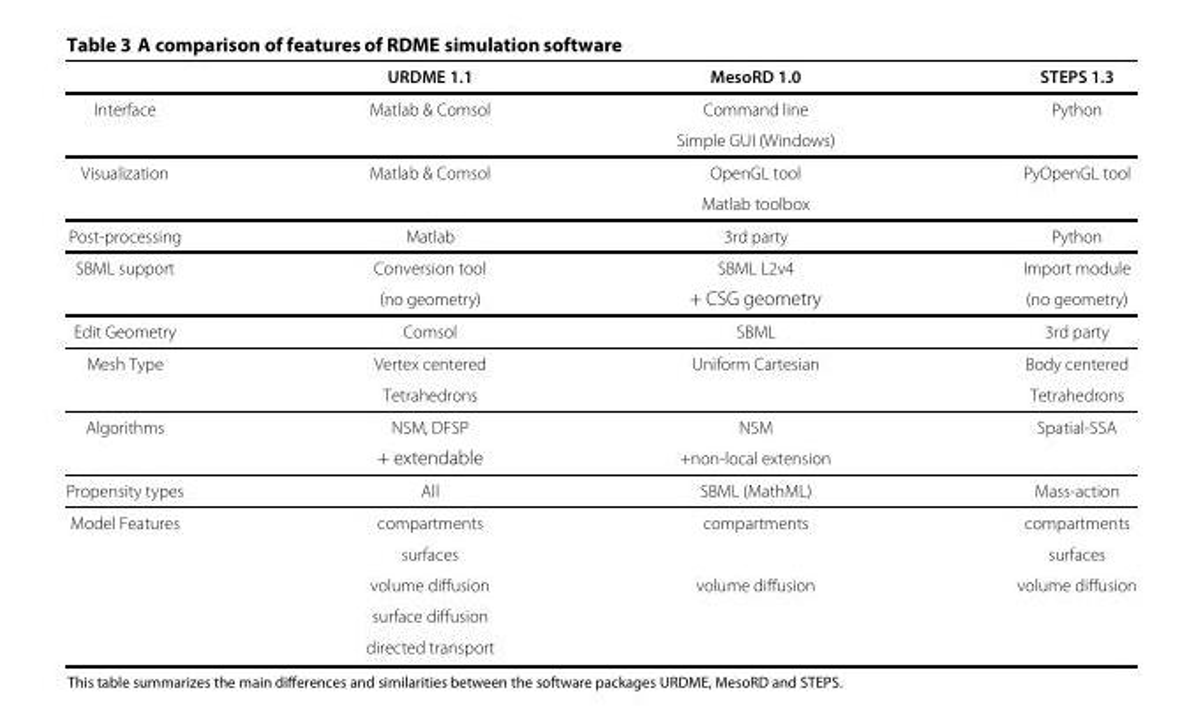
<table><thead><tr><td></td><td>URDME 1.1</td><td>MesoRD 1.0</td><td>STEPS 1.3</td></tr></thead><tbody><tr><td rowspan="2">Interface</td><td>Matlab &amp; Comsol</td><td>Command line</td><td>Python</td></tr><tr><td></td><td>Simple GUI (Windows)</td><td></td></tr><tr><td rowspan="2">Visualization</td><td>Matlab &amp; Comsol</td><td>OpenGL tool</td><td>PyOpenGL tool</td></tr><tr><td></td><td>Matlab toolbox</td><td></td></tr><tr><td>Post-processing</td><td>Matlab</td><td>3rd party</td><td>Python</td></tr><tr><td rowspan="2">SBML support</td><td>Conversion tool</td><td>SBML L2v4</td><td>Import module</td></tr><tr><td>(no geometry)</td><td>+ CSG geometry</td><td>(no geometry)</td></tr><tr><td>Edit Geometry</td><td>Comsol</td><td>SBML</td><td>3rd party</td></tr><tr><td rowspan="2">Mesh Type</td><td>Vertex centered</td><td>Uniform Cartesian</td><td>Body centered</td></tr><tr><td>Tetrahedrons</td><td></td><td>Tetrahedrons</td></tr><tr><td rowspan="2">Algorithms</td><td>NSM, DFSP</td><td>NSM</td><td>Spatial-SSA</td></tr><tr><td>+ extendable</td><td>+non-local extension</td><td></td></tr><tr><td>Propensity types</td><td>All</td><td>SBML (MathML)</td><td>Mass-action</td></tr><tr><td rowspan="5">Model Features</td><td>compartments</td><td>compartments</td><td>compartments</td></tr><tr><td>surfaces</td><td></td><td>surfaces</td></tr><tr><td>volume diffusion</td><td>volume diffusion</td><td>volume diffusion</td></tr><tr><td>surface diffusion</td><td></td><td></td></tr><tr><td>directed transport</td><td></td><td></td></tr></tbody></table>